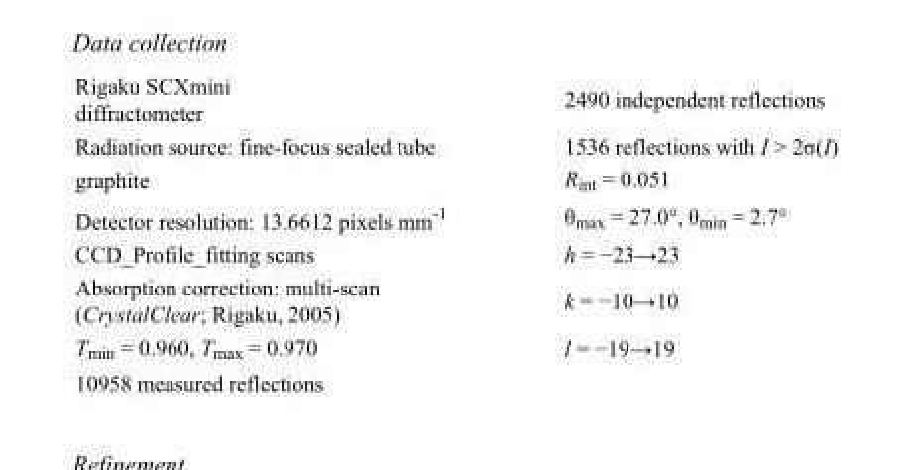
<table><tbody><tr><td>Rigaku SCXmini diffractometer</td><td>2490 independent reflections</td></tr><tr><td>Radiation source: fine-focus sealed tube</td><td>1536 reflections with I &gt; 2σ(I)</td></tr><tr><td>graphite</td><td>R<sub>int</sub> = 0.051</td></tr><tr><td>Detector resolution: 13.6612 pixels mm<sup>-1</sup></td><td>θ<sub>max</sub> = 27.0°, θ<sub>min</sub> = 2.7°</td></tr><tr><td>CCD_Profile_fitting scans</td><td>h = −23→23</td></tr><tr><td>Absorption correction: multi-scan (CrystalClear; Rigaku, 2005)</td><td>k = −10→10</td></tr><tr><td>T<sub>min</sub> = 0.960, T<sub>max</sub> = 0.970</td><td>l = −19→19</td></tr><tr><td>10958 measured reflections</td><td></td></tr></tbody></table>